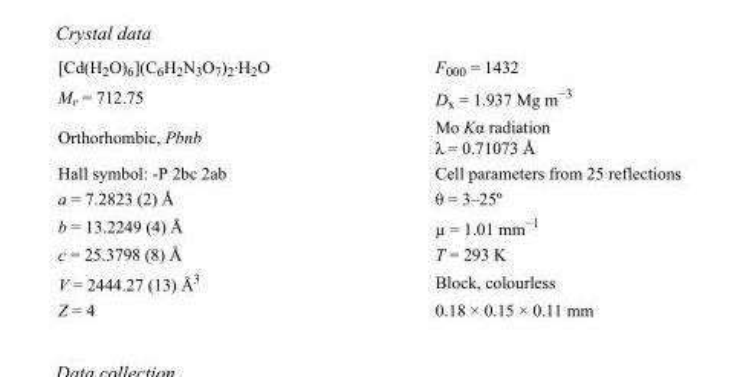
<table><tbody><tr><td>[Cd(H<sub>2</sub>O)<sub>6</sub>](C<sub>6</sub>H<sub>2</sub>N<sub>3</sub>O<sub>7</sub>)<sub>2</sub>·H<sub>2</sub>O</td><td>F000 = 1432</td></tr><tr><td>M<sub>r</sub> = 712.75</td><td>D<sub>x</sub> = 1.937 Mg m<sup>−3</sup></td></tr><tr><td>Orthorhombic, Pbnb</td><td>Mo Kα radiation λ = 0.71073 Å</td></tr><tr><td>Hall symbol: -P 2bc 2ab</td><td>Cell parameters from 25 reflections</td></tr><tr><td>a = 7.2823 (2) Å</td><td>θ = 3–25º</td></tr><tr><td>b = 13.2249 (4) Å</td><td>µ = 1.01 mm<sup>−1</sup></td></tr><tr><td>c = 25.3798 (8) Å</td><td>T = 293 K</td></tr><tr><td>V = 2444.27 (13) Å<sup>3</sup></td><td>Block, colourless</td></tr><tr><td>Z = 4</td><td>0.18 × 0.15 × 0.11 mm</td></tr></tbody></table>